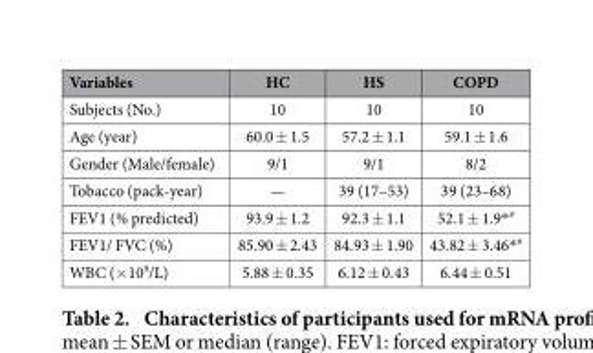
<table><thead><tr><td>Variables</td><td>HC</td><td>HS</td><td>COPD</td></tr></thead><tbody><tr><td>Subjects (No.)</td><td>10</td><td>10</td><td>10</td></tr><tr><td>Age (year)</td><td>60.0 ± 1.5</td><td>57.2 ± 1.1</td><td>59.1 ± 1.6</td></tr><tr><td>Gender (Male/female)</td><td>9/1</td><td>9/1</td><td>8/2</td></tr><tr><td>Tobacco (pack-year)</td><td>—</td><td>39 (17–53)</td><td>39 (23–68)</td></tr><tr><td>FEV1 (% predicted)</td><td>93.9 ± 1.2</td><td>92.3 ± 1.1</td><td>52.1 ± 1.9* <sup>#</sup></td></tr><tr><td>FEV1/ FVC (%)</td><td>85.90 ± 2.43</td><td>84.93 ± 1.90</td><td>43.82 ± 3.46* <sup>#</sup></td></tr><tr><td>WBC (× 10<sup>9</sup>/L)</td><td>5.88 ± 0.35</td><td>6.12 ± 0.43</td><td>6.44 ± 0.51</td></tr></tbody></table>